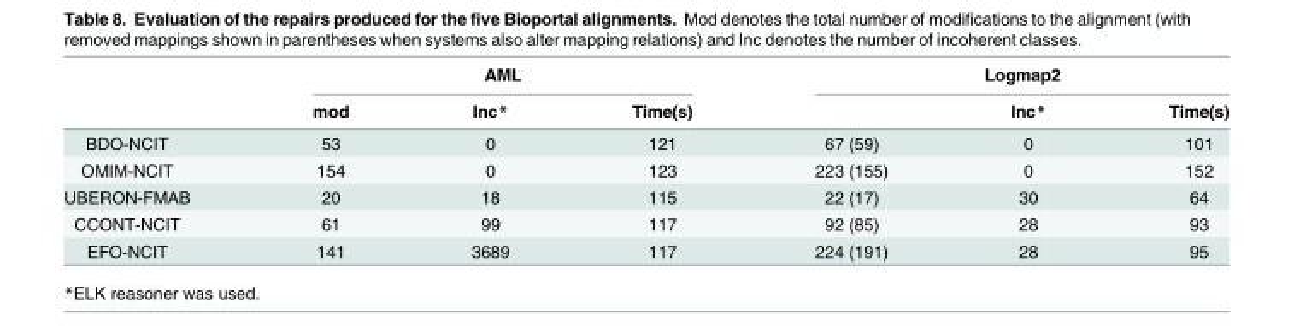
<table><thead><tr><td rowspan="2"></td><td colspan="3">AML</td><td colspan="3">Logmap2</td></tr><tr><td>mod</td><td>Inc*</td><td>Time(s)</td><td></td><td>Inc*</td><td>Time(s)</td></tr></thead><tbody><tr><td>BDO-NCIT</td><td>53</td><td>0</td><td>121</td><td>67 (59)</td><td>0</td><td>101</td></tr><tr><td>OMIM-NCIT</td><td>154</td><td>0</td><td>123</td><td>223 (155)</td><td>0</td><td>152</td></tr><tr><td>UBERON-FMAB</td><td>20</td><td>18</td><td>115</td><td>22 (17)</td><td>30</td><td>64</td></tr><tr><td>CCONT-NCIT</td><td>61</td><td>99</td><td>117</td><td>92 (85)</td><td>28</td><td>93</td></tr><tr><td>EFO-NCIT</td><td>141</td><td>3689</td><td>117</td><td>224 (191)</td><td>28</td><td>95</td></tr></tbody></table>